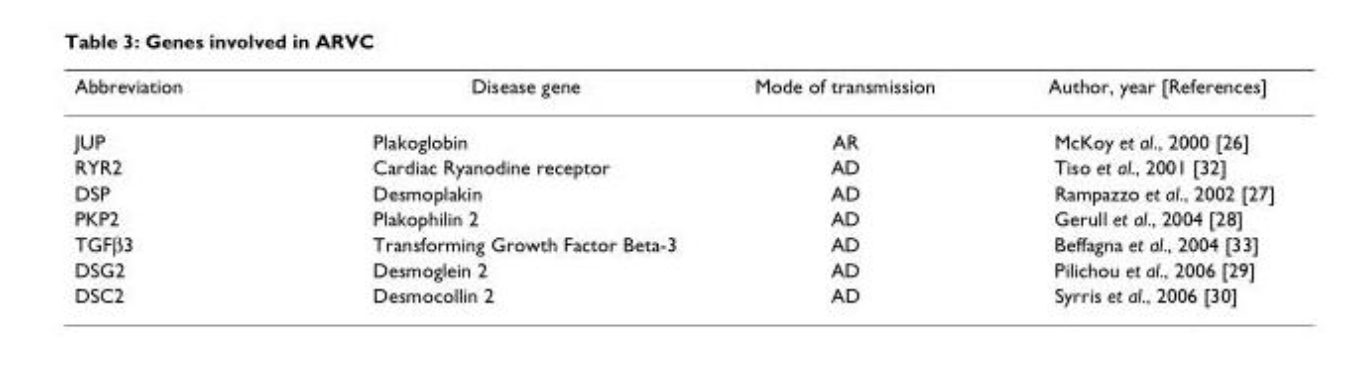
<table><thead><tr><td>Abbreviation</td><td>Disease gene</td><td>Mode of transmission</td><td>Author, year [References]</td></tr></thead><tbody><tr><td>JUP</td><td>Plakoglobin</td><td>AR</td><td>McKoy et al., 2000 [26]</td></tr><tr><td>RYR2</td><td>Cardiac Ryanodine receptor</td><td>AD</td><td>Tiso et al., 2001 [32]</td></tr><tr><td>DSP</td><td>Desmoplakin</td><td>AD</td><td>Rampazzo et al., 2002 [27]</td></tr><tr><td>PKP2</td><td>Plakophilin 2</td><td>AD</td><td>Gerull et al., 2004 [28]</td></tr><tr><td>TGFβ3</td><td>Transforming Growth Factor Beta-3</td><td>AD</td><td>Beffagna et al., 2004 [33]</td></tr><tr><td>DSG2</td><td>Desmoglein 2</td><td>AD</td><td>Pilichou et al., 2006 [29]</td></tr><tr><td>DSC2</td><td>Desmocollin 2</td><td>AD</td><td>Syrris et al., 2006 [30]</td></tr></tbody></table>